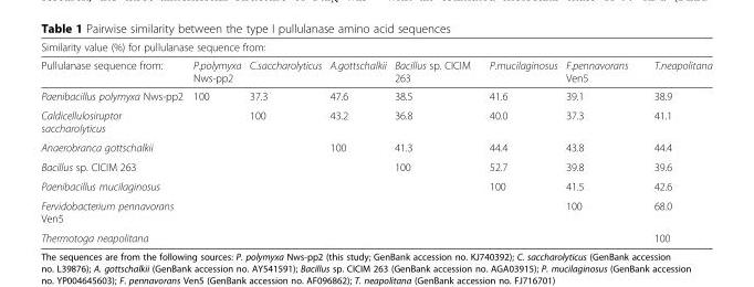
<table><thead><tr><td colspan="8">Similarity value (%) for pullulanase sequence from:</td></tr><tr><td>Pullulanase sequence from:</td><td>P.polymyxa Nws-pp2</td><td>C.saccharolyticus</td><td>A.gottschalkii</td><td>Bacillus sp. CICIM 263</td><td>P.mucilaginosus</td><td>F.pennavorans Ven5</td><td>T.neapolitana</td></tr></thead><tbody><tr><td>Paenibacillus polymyxa Nws-pp2</td><td>100</td><td>37.3</td><td>47.6</td><td>38.5</td><td>41.6</td><td>39.1</td><td>38.9</td></tr><tr><td>Caldicellulosiruptor saccharolyticus</td><td></td><td>100</td><td>43.2</td><td>36.8</td><td>40.0</td><td>37.3</td><td>41.1</td></tr><tr><td>Anaerobranca gottschalkii</td><td></td><td></td><td>100</td><td>41.3</td><td>44.4</td><td>43.8</td><td>44.4</td></tr><tr><td>Bacillus sp. CICIM 263</td><td></td><td></td><td></td><td>100</td><td>52.7</td><td>39.8</td><td>39.6</td></tr><tr><td>Paenibacillus mucilaginosus</td><td></td><td></td><td></td><td></td><td>100</td><td>41.5</td><td>42.6</td></tr><tr><td>Fervidobacterium pennavorans Ven5</td><td></td><td></td><td></td><td></td><td></td><td>100</td><td>68.0</td></tr><tr><td>Thermotoga neapolitana</td><td></td><td></td><td></td><td></td><td></td><td></td><td>100</td></tr></tbody></table>